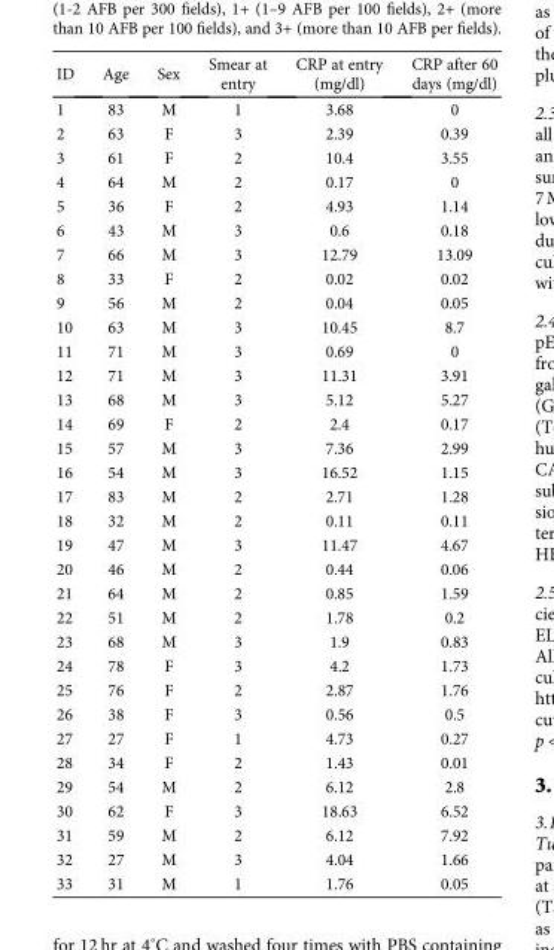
<table><thead><tr><td>ID</td><td>Age</td><td>Sex</td><td>Smear at entry</td><td>CRP at entry (mg/dl)</td><td>CRP after 60 days (mg/dl)</td></tr></thead><tbody><tr><td>1</td><td>83</td><td>M</td><td>1</td><td>3.68</td><td>0</td></tr><tr><td>2</td><td>63</td><td>F</td><td>3</td><td>2.39</td><td>0.39</td></tr><tr><td>3</td><td>61</td><td>F</td><td>2</td><td>10.4</td><td>3.55</td></tr><tr><td>4</td><td>64</td><td>M</td><td>2</td><td>0.17</td><td>0</td></tr><tr><td>5</td><td>36</td><td>F</td><td>2</td><td>4.93</td><td>1.14</td></tr><tr><td>6</td><td>43</td><td>M</td><td>3</td><td>0.6</td><td>0.18</td></tr><tr><td>7</td><td>66</td><td>M</td><td>3</td><td>12.79</td><td>13.09</td></tr><tr><td>8</td><td>33</td><td>F</td><td>2</td><td>0.02</td><td>0.02</td></tr><tr><td>9</td><td>56</td><td>M</td><td>2</td><td>0.04</td><td>0.05</td></tr><tr><td>10</td><td>63</td><td>M</td><td>3</td><td>10.45</td><td>8.7</td></tr><tr><td>11</td><td>71</td><td>M</td><td>3</td><td>0.69</td><td>0</td></tr><tr><td>12</td><td>71</td><td>M</td><td>3</td><td>11.31</td><td>3.91</td></tr><tr><td>13</td><td>68</td><td>M</td><td>3</td><td>5.12</td><td>5.27</td></tr><tr><td>14</td><td>69</td><td>F</td><td>2</td><td>2.4</td><td>0.17</td></tr><tr><td>15</td><td>57</td><td>M</td><td>3</td><td>7.36</td><td>2.99</td></tr><tr><td>16</td><td>54</td><td>M</td><td>3</td><td>16.52</td><td>1.15</td></tr><tr><td>17</td><td>83</td><td>M</td><td>2</td><td>2.71</td><td>1.28</td></tr><tr><td>18</td><td>32</td><td>M</td><td>2</td><td>0.11</td><td>0.11</td></tr><tr><td>19</td><td>47</td><td>M</td><td>3</td><td>11.47</td><td>4.67</td></tr><tr><td>20</td><td>46</td><td>M</td><td>2</td><td>0.44</td><td>0.06</td></tr><tr><td>21</td><td>64</td><td>M</td><td>2</td><td>0.85</td><td>1.59</td></tr><tr><td>22</td><td>51</td><td>M</td><td>2</td><td>1.78</td><td>0.2</td></tr><tr><td>23</td><td>68</td><td>M</td><td>3</td><td>1.9</td><td>0.83</td></tr><tr><td>24</td><td>78</td><td>F</td><td>3</td><td>4.2</td><td>1.73</td></tr><tr><td>25</td><td>76</td><td>F</td><td>2</td><td>2.87</td><td>1.76</td></tr><tr><td>26</td><td>38</td><td>F</td><td>3</td><td>0.56</td><td>0.5</td></tr><tr><td>27</td><td>27</td><td>F</td><td>1</td><td>4.73</td><td>0.27</td></tr><tr><td>28</td><td>34</td><td>F</td><td>2</td><td>1.43</td><td>0.01</td></tr><tr><td>29</td><td>54</td><td>M</td><td>2</td><td>6.12</td><td>2.8</td></tr><tr><td>30</td><td>62</td><td>F</td><td>3</td><td>18.63</td><td>6.52</td></tr><tr><td>31</td><td>59</td><td>M</td><td>2</td><td>6.12</td><td>7.92</td></tr><tr><td>32</td><td>27</td><td>M</td><td>3</td><td>4.04</td><td>1.66</td></tr><tr><td>33</td><td>31</td><td>M</td><td>1</td><td>1.76</td><td>0.05</td></tr></tbody></table>